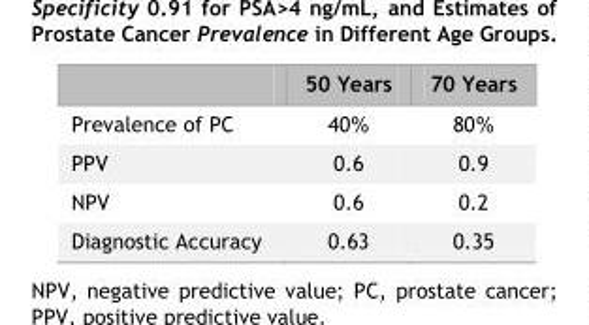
<table><thead><tr><td></td><td>50 Years</td><td>70 Years</td></tr></thead><tbody><tr><td>Prevalence of PC</td><td>40%</td><td>80%</td></tr><tr><td>PPV</td><td>0.6</td><td>0.9</td></tr><tr><td>NPV</td><td>0.6</td><td>0.2</td></tr><tr><td>Diagnostic Accuracy</td><td>0.63</td><td>0.35</td></tr></tbody></table>